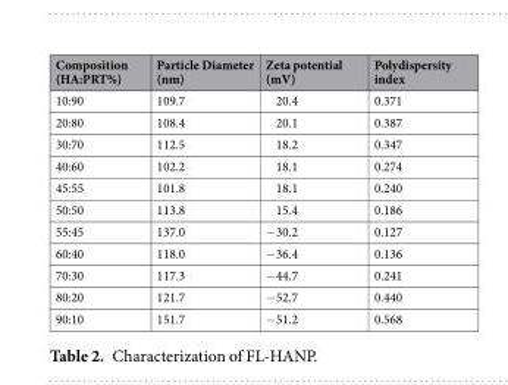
<table><thead><tr><td>Composition (HA:PRT%)</td><td>Particle Diameter (nm)</td><td>Zeta potential (mV)</td><td>Polydispersity index</td></tr></thead><tbody><tr><td>10:90</td><td>109.7</td><td>20.4</td><td>0.371</td></tr><tr><td>20:80</td><td>108.4</td><td>20.1</td><td>0.387</td></tr><tr><td>30:70</td><td>112.5</td><td>18.2</td><td>0.347</td></tr><tr><td>40:60</td><td>102.2</td><td>18.1</td><td>0.274</td></tr><tr><td>45:55</td><td>101.8</td><td>18.1</td><td>0.240</td></tr><tr><td>50:50</td><td>113.8</td><td>15.4</td><td>0.186</td></tr><tr><td>55:45</td><td>137.0</td><td>−30.2</td><td>0.127</td></tr><tr><td>60:40</td><td>118.0</td><td>−36.4</td><td>0.136</td></tr><tr><td>70:30</td><td>117.3</td><td>−44.7</td><td>0.241</td></tr><tr><td>80:20</td><td>121.7</td><td>−52.7</td><td>0.440</td></tr><tr><td>90:10</td><td>151.7</td><td>−51.2</td><td>0.568</td></tr></tbody></table>